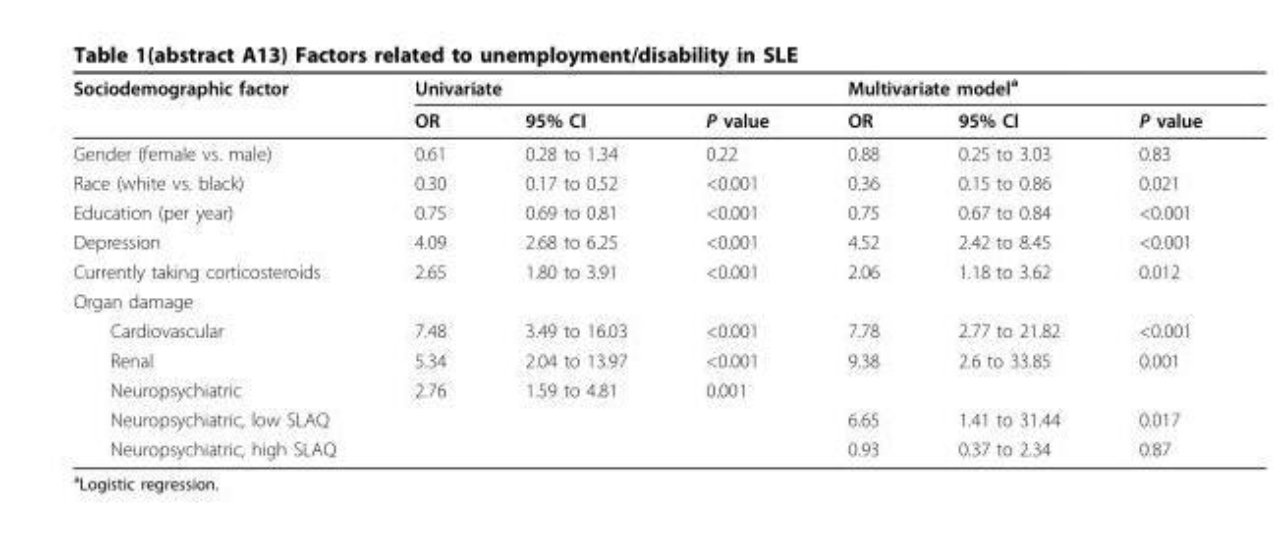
<table><thead><tr><td rowspan="2">Sociodemographic factor</td><td colspan="3">Univariate</td><td colspan="3">Multivariate model<sup>a</sup></td></tr><tr><td>OR</td><td>95% CI</td><td>P value</td><td>OR</td><td>95% CI</td><td>P value</td></tr></thead><tbody><tr><td>Gender (female vs. male)</td><td>0.61</td><td>0.28 to 1.34</td><td>0.22</td><td>0.88</td><td>0.25 to 3.03</td><td>0.83</td></tr><tr><td>Race (white vs. black)</td><td>0.30</td><td>0.17 to 0.52</td><td>&lt;0.001</td><td>0.36</td><td>0.15 to 0.86</td><td>0.021</td></tr><tr><td>Education (per year)</td><td>0.75</td><td>0.69 to 0.81</td><td>&lt;0.001</td><td>0.75</td><td>0.67 to 0.84</td><td>&lt;0.001</td></tr><tr><td>Depression</td><td>4.09</td><td>2.68 to 6.25</td><td>&lt;0.001</td><td>4.52</td><td>2.42 to 8.45</td><td>&lt;0.001</td></tr><tr><td>Currently taking corticosteroids</td><td>2.65</td><td>1.80 to 3.91</td><td>&lt;0.001</td><td>2.06</td><td>1.18 to 3.62</td><td>0.012</td></tr><tr><td colspan="7">Organ damage</td></tr><tr><td>Cardiovascular</td><td>7.48</td><td>3.49 to 16.03</td><td>&lt;0.001</td><td>7.78</td><td>2.77 to 21.82</td><td>&lt;0.001</td></tr><tr><td>Renal</td><td>5.34</td><td>2.04 to 13.97</td><td>&lt;0.001</td><td>9.38</td><td>2.6 to 33.85</td><td>0.001</td></tr><tr><td>Neuropsychiatric</td><td>2.76</td><td>1.59 to 4.81</td><td>0.001</td><td></td><td></td><td></td></tr><tr><td>Neuropsychiatric, low SLAQ</td><td></td><td></td><td></td><td>6.65</td><td>1.41 to 31.44</td><td>0.017</td></tr><tr><td>Neuropsychiatric, high SLAQ</td><td></td><td></td><td></td><td>0.93</td><td>0.37 to 2.34</td><td>0.87</td></tr></tbody></table>